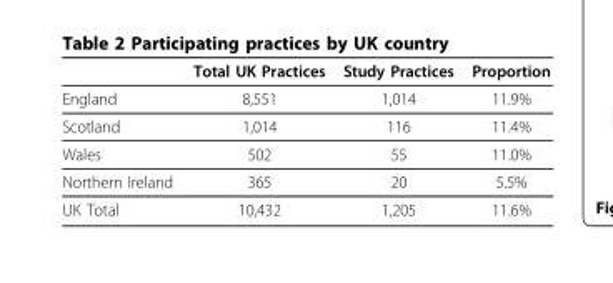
<table><thead><tr><td></td><td>Total UK Practices</td><td>Study Practices</td><td>Proportion</td></tr></thead><tbody><tr><td>England</td><td>8,551</td><td>1,014</td><td>11.9%</td></tr><tr><td>Scotland</td><td>1,014</td><td>116</td><td>11.4%</td></tr><tr><td>Wales</td><td>502</td><td>55</td><td>11.0%</td></tr><tr><td>Northern Ireland</td><td>365</td><td>20</td><td>5.5%</td></tr><tr><td>UK Total</td><td>10,432</td><td>1,205</td><td>11.6%</td></tr></tbody></table>